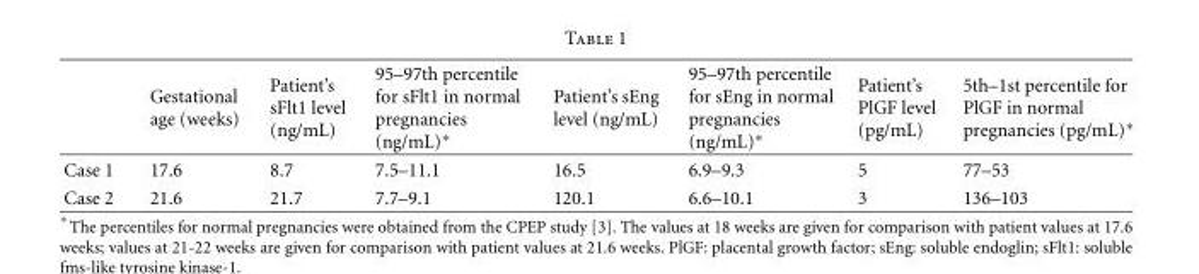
<table><thead><tr><td></td><td>Gestational age (weeks)</td><td>Patient’s sFlt1 level (ng/mL)</td><td>95–97th percentile for sFlt1 in normal pregnancies (ng/mL)∗</td><td>Patient’s sEng level (ng/mL)</td><td>95–97th percentile for sEng in normal pregnancies (ng/mL)∗</td><td>Patient’s PlGF level (pg/mL)</td><td>5th–1st percentile for PlGF in normal pregnancies (pg/mL)∗</td></tr></thead><tbody><tr><td>Case 1</td><td>17.6</td><td>8.7</td><td>7.5–11.1</td><td>16.5</td><td>6.9–9.3</td><td>5</td><td>77–53</td></tr><tr><td>Case 2</td><td>21.6</td><td>21.7</td><td>7.7–9.1</td><td>120.1</td><td>6.6–10.1</td><td>3</td><td>136–103</td></tr></tbody></table>